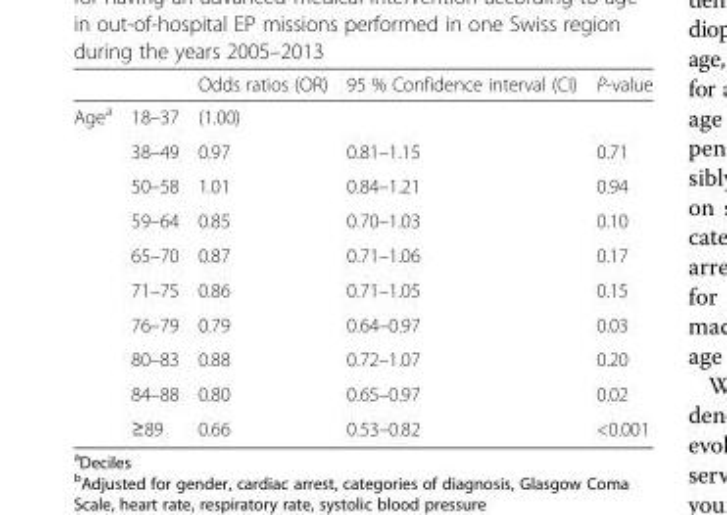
<table><thead><tr><td></td><td></td><td>Odds ratios (OR)</td><td>95 % Confidence interval (CI)</td><td>P-value</td></tr></thead><tbody><tr><td rowspan="10">Age<sup>a</sup></td><td>18–37</td><td>(1.00)</td><td></td><td></td></tr><tr><td>38–49</td><td>0.97</td><td>0.81–1.15</td><td>0.71</td></tr><tr><td>50–58</td><td>1.01</td><td>0.84–1.21</td><td>0.94</td></tr><tr><td>59–64</td><td>0.85</td><td>0.70–1.03</td><td>0.10</td></tr><tr><td>65–70</td><td>0.87</td><td>0.71–1.06</td><td>0.17</td></tr><tr><td>71–75</td><td>0.86</td><td>0.71–1.05</td><td>0.15</td></tr><tr><td>76–79</td><td>0.79</td><td>0.64–0.97</td><td>0.03</td></tr><tr><td>80–83</td><td>0.88</td><td>0.72–1.07</td><td>0.20</td></tr><tr><td>84–88</td><td>0.80</td><td>0.65–0.97</td><td>0.02</td></tr><tr><td>≥89</td><td>0.66</td><td>0.53–0.82</td><td>&lt;0.001</td></tr></tbody></table>